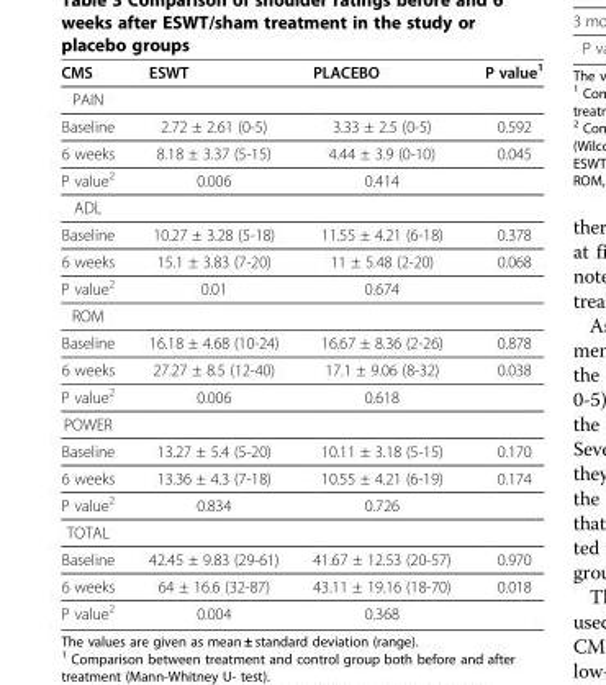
<table><thead><tr><td>CMS</td><td>ESWT</td><td>PLACEBO</td><td>P value<sup>1</sup></td></tr></thead><tbody><tr><td colspan="4">PAIN</td></tr><tr><td>Baseline</td><td>2.72 ± 2.61 (0-5)</td><td>3.33 ± 2.5 (0-5)</td><td>0.592</td></tr><tr><td>6 weeks</td><td>8.18 ± 3.37 (5-15)</td><td>4.44 ± 3.9 (0-10)</td><td>0.045</td></tr><tr><td>P value<sup>2</sup></td><td>0.006</td><td>0.414</td><td></td></tr><tr><td colspan="4">ADL</td></tr><tr><td>Baseline</td><td>10.27 ± 3.28 (5-18)</td><td>11.55 ± 4.21 (6-18)</td><td>0.378</td></tr><tr><td>6 weeks</td><td>15.1 ± 3.83 (7-20)</td><td>11 ± 5.48 (2-20)</td><td>0.068</td></tr><tr><td>P value<sup>2</sup></td><td>0.01</td><td>0.674</td><td></td></tr><tr><td colspan="4">ROM</td></tr><tr><td>Baseline</td><td>16.18 ± 4.68 (10-24)</td><td>16.67 ± 8.36 (2-26)</td><td>0.878</td></tr><tr><td>6 weeks</td><td>27.27 ± 8.5 (12-40)</td><td>17.1 ± 9.06 (8-32)</td><td>0.038</td></tr><tr><td>P value<sup>2</sup></td><td>0.006</td><td>0.618</td><td></td></tr><tr><td colspan="4">POWER</td></tr><tr><td>Baseline</td><td>13.27 ± 5.4 (5-20)</td><td>10.11 ± 3.18 (5-15)</td><td>0.170</td></tr><tr><td>6 weeks</td><td>13.36 ± 4.3 (7-18)</td><td>10.55 ± 4.21 (6-19)</td><td>0.174</td></tr><tr><td>P value<sup>2</sup></td><td>0.834</td><td>0.726</td><td></td></tr><tr><td colspan="4">TOTAL</td></tr><tr><td>Baseline</td><td>42.45 ± 9.83 (29-61)</td><td>41.67 ± 12.53 (20-57)</td><td>0.970</td></tr><tr><td>6 weeks</td><td>64 ± 16.6 (32-87)</td><td>43.11 ± 19.16 (18-70)</td><td>0.018</td></tr><tr><td>P value<sup>2</sup></td><td>0.004</td><td>0.368</td><td></td></tr></tbody></table>